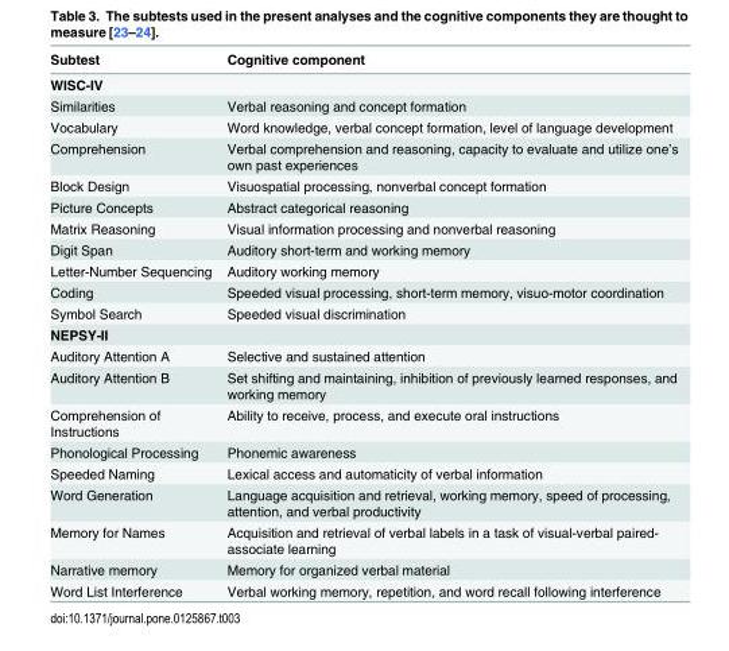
<table><thead><tr><td>Subtest</td><td>Cognitive component</td></tr></thead><tbody><tr><td colspan="2">WISC-IV</td></tr><tr><td>Similarities</td><td>Verbal reasoning and concept formation</td></tr><tr><td>Vocabulary</td><td>Word knowledge, verbal concept formation, level of language development</td></tr><tr><td>Comprehension</td><td>Verbal comprehension and reasoning, capacity to evaluate and utilize one’s own past experiences</td></tr><tr><td>Block Design</td><td>Visuospatial processing, nonverbal concept formation</td></tr><tr><td>Picture Concepts</td><td>Abstract categorical reasoning</td></tr><tr><td>Matrix Reasoning</td><td>Visual information processing and nonverbal reasoning</td></tr><tr><td>Digit Span</td><td>Auditory short-term and working memory</td></tr><tr><td>Letter-Number Sequencing</td><td>Auditory working memory</td></tr><tr><td>Coding</td><td>Speeded visual processing, short-term memory, visuo-motor coordination</td></tr><tr><td>Symbol Search</td><td>Speeded visual discrimination</td></tr><tr><td colspan="2">NEPSY-II</td></tr><tr><td>Auditory Attention A</td><td>Selective and sustained attention</td></tr><tr><td>Auditory Attention B</td><td>Set shifting and maintaining, inhibition of previously learned responses, and working memory</td></tr><tr><td>Comprehension of Instructions</td><td>Ability to receive, process, and execute oral instructions</td></tr><tr><td>Phonological Processing</td><td>Phonemic awareness</td></tr><tr><td>Speeded Naming</td><td>Lexical access and automaticity of verbal information</td></tr><tr><td>Word Generation</td><td>Language acquisition and retrieval, working memory, speed of processing, attention, and verbal productivity</td></tr><tr><td>Memory for Names</td><td>Acquisition and retrieval of verbal labels in a task of visual-verbal paired- associate learning</td></tr><tr><td>Narrative memory</td><td>Memory for organized verbal material</td></tr><tr><td>Word List Interference</td><td>Verbal working memory, repetition, and word recall following interference</td></tr></tbody></table>